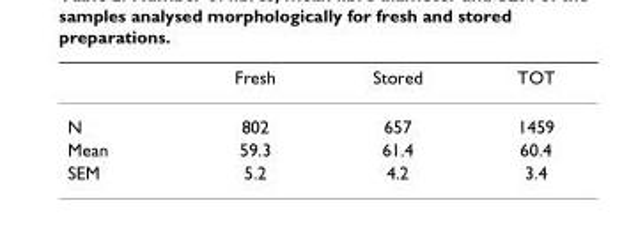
<table><thead><tr><td></td><td>Fresh</td><td>Stored</td><td>TOT</td></tr></thead><tbody><tr><td>N</td><td>802</td><td>657</td><td>1459</td></tr><tr><td>Mean</td><td>59.3</td><td>61.4</td><td>60.4</td></tr><tr><td>SEM</td><td>5.2</td><td>4.2</td><td>3.4</td></tr></tbody></table>